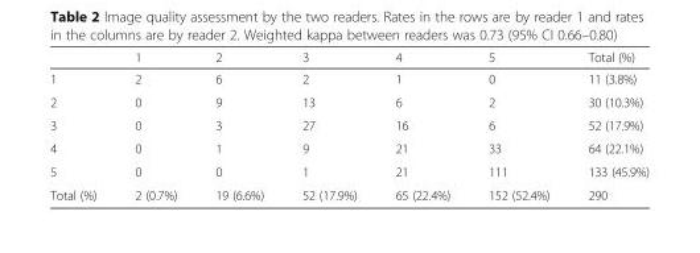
<table><thead><tr><td></td><td>1</td><td>2</td><td>3</td><td>4</td><td>5</td><td>Total (%)</td></tr></thead><tbody><tr><td>1</td><td>2</td><td>6</td><td>2</td><td>1</td><td>0</td><td>11 (3.8%)</td></tr><tr><td>2</td><td>0</td><td>9</td><td>13</td><td>6</td><td>2</td><td>30 (10.3%)</td></tr><tr><td>3</td><td>0</td><td>3</td><td>27</td><td>16</td><td>6</td><td>52 (17.9%)</td></tr><tr><td>4</td><td>0</td><td>1</td><td>9</td><td>21</td><td>33</td><td>64 (22.1%)</td></tr><tr><td>5</td><td>0</td><td>0</td><td>1</td><td>21</td><td>111</td><td>133 (45.9%)</td></tr><tr><td>Total (%)</td><td>2 (0.7%)</td><td>19 (6.6%)</td><td>52 (17.9%)</td><td>65 (22.4%)</td><td>152 (52.4%)</td><td>290</td></tr></tbody></table>